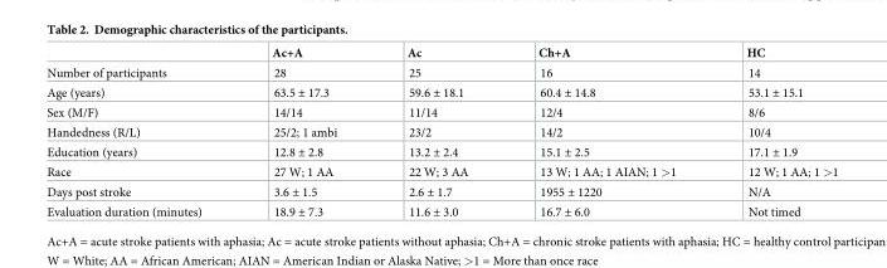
<table><thead><tr><td></td><td>Ac+A</td><td>Ac</td><td>Ch+A</td><td>HC</td></tr></thead><tbody><tr><td>Number of participants</td><td>28</td><td>25</td><td>16</td><td>14</td></tr><tr><td>Age (years)</td><td>63.5 ± 17.3</td><td>59.6 ± 18.1</td><td>60.4 ± 14.8</td><td>53.1 ± 15.1</td></tr><tr><td>Sex (M/F)</td><td>14/14</td><td>11/14</td><td>12/4</td><td>8/6</td></tr><tr><td>Handedness (R/L)</td><td>25/2; 1 ambi</td><td>23/2</td><td>14/2</td><td>10/4</td></tr><tr><td>Education (years)</td><td>12.8 ± 2.8</td><td>13.2 ± 2.4</td><td>15.1 ± 2.5</td><td>17.1 ± 1.9</td></tr><tr><td>Race</td><td>27 W; 1 AA</td><td>22 W; 3 AA</td><td>13 W; 1 AA; 1 AIAN; 1 &gt;1</td><td>12 W; 1 AA; 1 &gt;1</td></tr><tr><td>Days post stroke</td><td>3.6 ± 1.5</td><td>2.6 ± 1.7</td><td>1955 ± 1220</td><td>N/A</td></tr><tr><td>Evaluation duration (minutes)</td><td>18.9 ± 7.3</td><td>11.6 ± 3.0</td><td>16.7 ± 6.0</td><td>Not timed</td></tr></tbody></table>